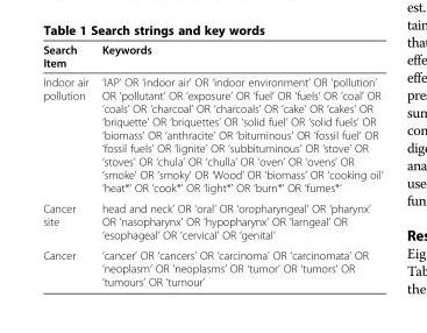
<table><thead><tr><td>Search Item</td><td>Keywords</td></tr></thead><tbody><tr><td>Indoor air pollution</td><td>‘IAP’ OR ‘indoor air’ OR ‘indoor environment’ OR ‘pollution’ OR ‘pollutant’ OR ‘exposure’ OR ‘fuel’ OR ‘fuels’ OR ‘coal’ OR ‘coals’ OR ‘charcoal’ OR ‘charcoals’ OR ‘cake’ OR ‘cakes’ OR ‘briquette’ OR ‘briquettes’ OR ‘solid fuel’ OR ‘solid fuels’ OR ‘biomass’ OR ‘anthracite’ OR ‘bituminous’ OR ‘fossil fuel’ OR ‘fossil fuels’ OR ‘lignite’ OR ‘subbituminous’ OR ‘stove’ OR ‘stoves’ OR ‘chula’ OR ‘chulla’ OR ‘oven’ OR ‘ovens’ OR ‘smoke’ OR ‘smoky’ OR ‘Wood’ OR ‘biomass’ OR ‘cooking oil’ ‘heat*’ OR ‘cook*’ OR ‘light*’ OR ‘burn*’ OR ‘fumes*’</td></tr><tr><td>Cancer site</td><td>head and neck’ OR ‘oral’ OR ‘oropharyngeal’ OR ‘pharynx’ OR ‘nasopharynx’ OR ‘hypopharynx’ OR ‘larngeal’ OR ‘esophageal’ OR ‘cervical’ OR ‘genital’</td></tr><tr><td>Cancer</td><td>‘cancer’ OR ‘cancers’ OR ‘carcinoma’ OR ‘carcinomata’ OR ‘neoplasm’ OR ‘neoplasms’ OR ‘tumor’ OR ‘tumors’ OR ‘tumours’ OR ‘tumour’</td></tr></tbody></table>